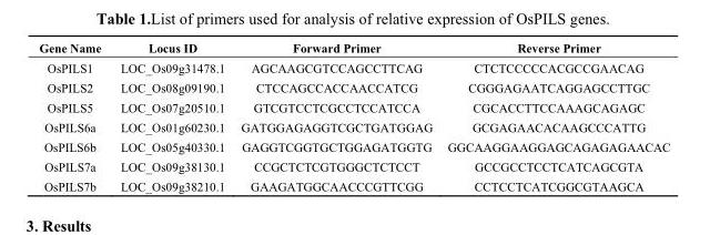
<table><thead><tr><td>Gene Name</td><td>Locus ID</td><td>Forward Primer</td><td>Reverse Primer</td></tr></thead><tbody><tr><td>OsPILS1</td><td>LOC_Os09g31478.1</td><td>AGCAAGCGTCCAGCCTTCAG</td><td>CTCTCCCCCACGCCGAACAG</td></tr><tr><td>OsPILS2</td><td>LOC_Os08g09190.1</td><td>CTCCAGCCACCAACCATCG</td><td>CGGGAGAATCAGGAGCCTTGC</td></tr><tr><td>OsPILS5</td><td>LOC_Os07g20510.1</td><td>GTCGTCCTCGCCTCCATCCA</td><td>CGCACCTTCCAAAGCAGAGC</td></tr><tr><td>OsPILS6a</td><td>LOC_Os01g60230.1</td><td>GATGGAGAGGTCGCTGATGGAG</td><td>GCGAGAACACAAGCCCATTG</td></tr><tr><td>OsPILS6b</td><td>LOC_Os05g40330.1</td><td>GAGGTCGGTGCTGGAGATGGTG</td><td>GGCAAGGAAGGAGCAGAGAGAACAC</td></tr><tr><td>OsPILS7a</td><td>LOC_Os09g38130.1</td><td>CCGCTCTCGTGGGCTCTCCT</td><td>GCCGCCTCCTCATCAGCGTA</td></tr><tr><td>OsPILS7b</td><td>LOC_Os09g38210.1</td><td>GAAGATGGCAACCCGTTCGG</td><td>CCTCCTCATCGGCGTAAGCA</td></tr></tbody></table>